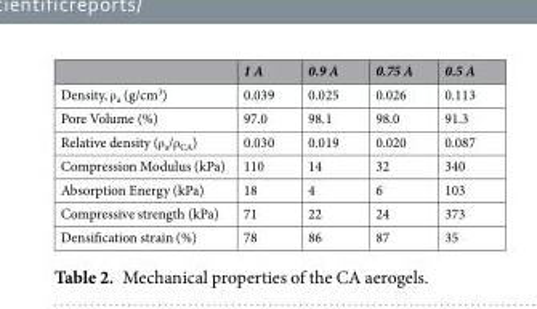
<table><thead><tr><td></td><td>1 A</td><td>0.9 A</td><td>0.75 A</td><td>0.5 A</td></tr></thead><tbody><tr><td>Density, ρ<sub>a</sub> (g/cm<sup>3</sup>)</td><td>0.039</td><td>0.025</td><td>0.026</td><td>0.113</td></tr><tr><td>Pore Volume (%)</td><td>97.0</td><td>98.1</td><td>98.0</td><td>91.3</td></tr><tr><td>Relative density (ρ<sub>a</sub>/ρ<sub>CA</sub>)</td><td>0.030</td><td>0.019</td><td>0.020</td><td>0.087</td></tr><tr><td>Compression Modulus (kPa)</td><td>110</td><td>14</td><td>32</td><td>340</td></tr><tr><td>Absorption Energy (kPa)</td><td>18</td><td>4</td><td>6</td><td>103</td></tr><tr><td>Compressive strength (kPa)</td><td>71</td><td>22</td><td>24</td><td>373</td></tr><tr><td>Densification strain (%)</td><td>78</td><td>86</td><td>87</td><td>35</td></tr></tbody></table>